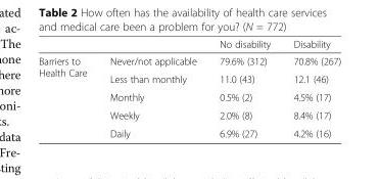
<table><thead><tr><td></td><td></td><td>No disability</td><td>Disability</td></tr></thead><tbody><tr><td rowspan="5">Barriers to Health Care</td><td>Never/not applicable</td><td>79.6% (312)</td><td>70.8% (267)</td></tr><tr><td>Less than monthly</td><td>11.0 (43)</td><td>12.1 (46)</td></tr><tr><td>Monthly</td><td>0.5% (2)</td><td>4.5% (17)</td></tr><tr><td>Weekly</td><td>2.0% (8)</td><td>8.4% (17)</td></tr><tr><td>Daily</td><td>6.9% (27)</td><td>4.2% (16)</td></tr></tbody></table>